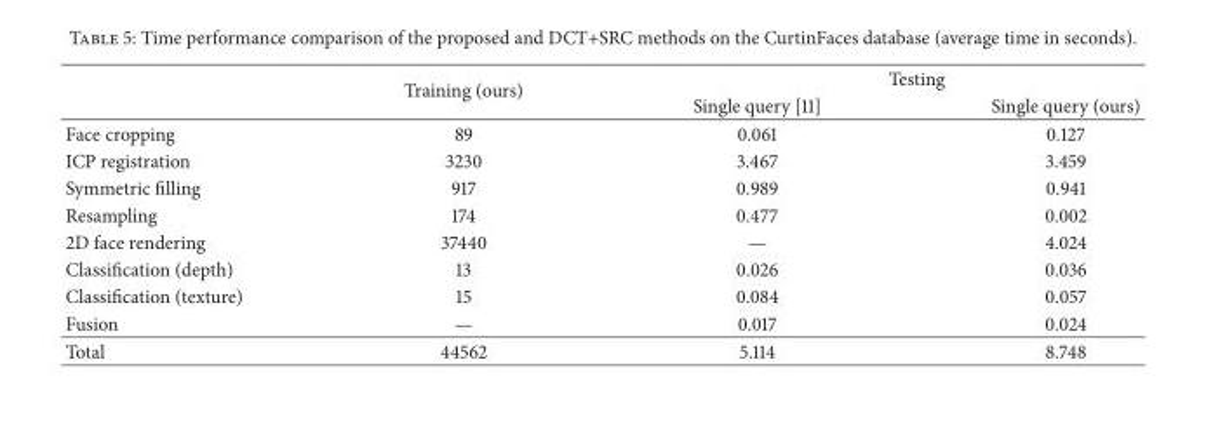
<table><thead><tr><td rowspan="2"></td><td rowspan="2">Training (ours)</td><td colspan="2">Testing</td></tr><tr><td>Single query [11]</td><td>Single query (ours)</td></tr></thead><tbody><tr><td>Face cropping</td><td>89</td><td>0.061</td><td>0.127</td></tr><tr><td>ICP registration</td><td>3230</td><td>3.467</td><td>3.459</td></tr><tr><td>Symmetric filling</td><td>917</td><td>0.989</td><td>0.941</td></tr><tr><td>Resampling</td><td>174</td><td>0.477</td><td>0.002</td></tr><tr><td>2D face rendering</td><td>37440</td><td>—</td><td>4.024</td></tr><tr><td>Classification (depth)</td><td>13</td><td>0.026</td><td>0.036</td></tr><tr><td>Classification (texture)</td><td>15</td><td>0.084</td><td>0.057</td></tr><tr><td>Fusion</td><td>—</td><td>0.017</td><td>0.024</td></tr><tr><td>Total</td><td>44562</td><td>5.114</td><td>8.748</td></tr></tbody></table>